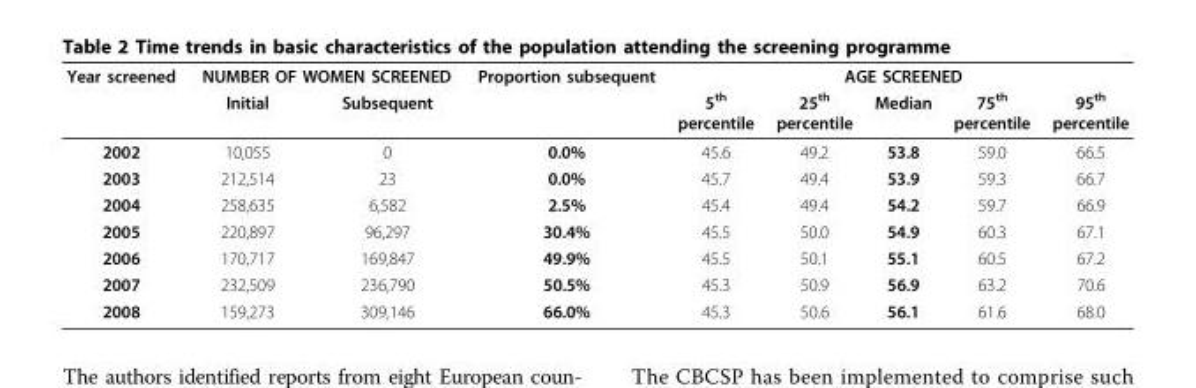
<table><thead><tr><td rowspan="2">Year screened</td><td colspan="2">NUMBER OF WOMEN SCREENED</td><td rowspan="2">Proportion subsequent</td><td rowspan="2">5<sup>th</sup> percentile</td><td colspan="3">AGE SCREENED</td><td rowspan="2">95<sup>th</sup> percentile</td></tr><tr><td>Initial</td><td>Subsequent</td><td>25<sup>th</sup> percentile</td><td>Median</td><td>75<sup>th</sup> percentile</td></tr></thead><tbody><tr><td>2002</td><td>10,055</td><td>0</td><td>0.0%</td><td>45.6</td><td>49.2</td><td>53.8</td><td>59.0</td><td>66.5</td></tr><tr><td>2003</td><td>212,514</td><td>23</td><td>0.0%</td><td>45.7</td><td>49.4</td><td>53.9</td><td>59.3</td><td>66.7</td></tr><tr><td>2004</td><td>258,635</td><td>6,582</td><td>2.5%</td><td>45.4</td><td>49.4</td><td>54.2</td><td>59.7</td><td>66.9</td></tr><tr><td>2005</td><td>220,897</td><td>96,297</td><td>30.4%</td><td>45.5</td><td>50.0</td><td>54.9</td><td>60.3</td><td>67.1</td></tr><tr><td>2006</td><td>170,717</td><td>169,847</td><td>49.9%</td><td>45.5</td><td>50.1</td><td>55.1</td><td>60.5</td><td>67.2</td></tr><tr><td>2007</td><td>232,509</td><td>236,790</td><td>50.5%</td><td>45.3</td><td>50.9</td><td>56.9</td><td>63.2</td><td>70.6</td></tr><tr><td>2008</td><td>159,273</td><td>309,146</td><td>66.0%</td><td>45.3</td><td>50.6</td><td>56.1</td><td>61.6</td><td>68.0</td></tr></tbody></table>